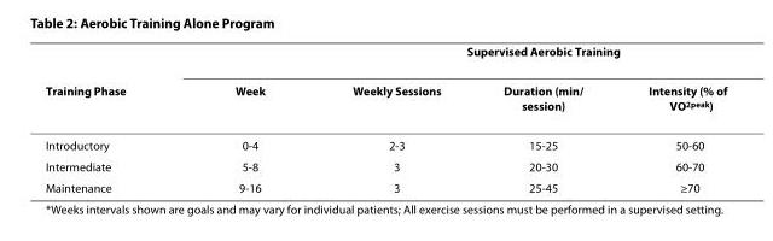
<table><thead><tr><td rowspan="2">Training Phase</td><td rowspan="2">Week</td><td colspan="3">Supervised Aerobic Training</td></tr><tr><td>Weekly Sessions</td><td>Duration (min/ session)</td><td>Intensity (% of VO<sub>2peak</sub>)</td></tr></thead><tbody><tr><td>Introductory</td><td>0-4</td><td>2-3</td><td>15-25</td><td>50-60</td></tr><tr><td>Intermediate</td><td>5-8</td><td>3</td><td>20-30</td><td>60-70</td></tr><tr><td>Maintenance</td><td>9-16</td><td>3</td><td>25-45</td><td>≥70</td></tr></tbody></table>